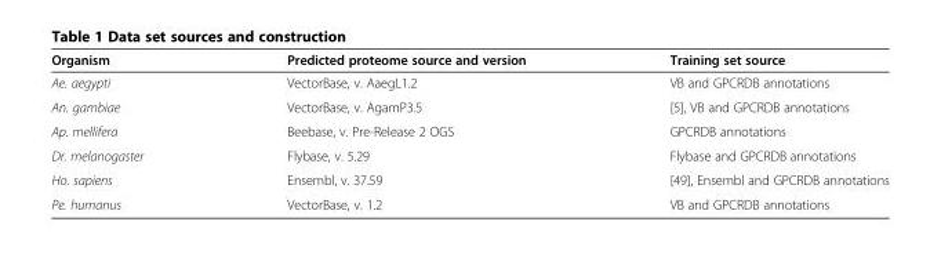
<table><thead><tr><td>Organism</td><td>Predicted proteome source and version</td><td>Training set source</td></tr></thead><tbody><tr><td>Ae. aegypti</td><td>VectorBase, v. AaegL1.2</td><td>VB and GPCRDB annotations</td></tr><tr><td>An. gambiae</td><td>VectorBase, v. AgamP3.5</td><td>[5], VB and GPCRDB annotations</td></tr><tr><td>Ap. mellifera</td><td>Beebase, v. Pre-Release 2 OGS</td><td>GPCRDB annotations</td></tr><tr><td>Dr. melanogaster</td><td>Flybase, v. 5.29</td><td>Flybase and GPCRDB annotations</td></tr><tr><td>Ho. sapiens</td><td>Ensembl, v. 37.59</td><td>[49], Ensembl and GPCRDB annotations</td></tr><tr><td>Pe. humanus</td><td>VectorBase, v. 1.2</td><td>VB and GPCRDB annotations</td></tr></tbody></table>